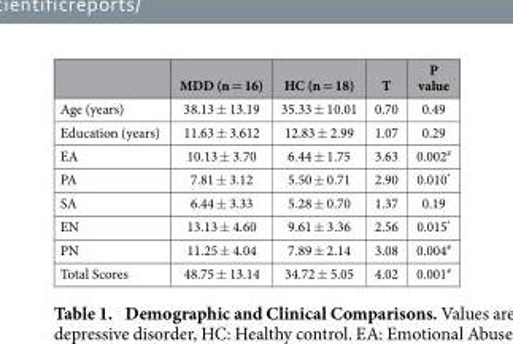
<table><thead><tr><td></td><td>MDD (n = 16)</td><td>HC (n = 18)</td><td>T</td><td>P value</td></tr></thead><tbody><tr><td>Age (years)</td><td>38.13 ± 13.19</td><td>35.33 ± 10.01</td><td>0.70</td><td>0.49</td></tr><tr><td>Education (years)</td><td>11.63 ± 3.612</td><td>12.83 ± 2.99</td><td>1.07</td><td>0.29</td></tr><tr><td>EA</td><td>10.13 ± 3.70</td><td>6.44 ± 1.75</td><td>3.63</td><td>0.002<sup>#</sup></td></tr><tr><td>PA</td><td>7.81 ± 3.12</td><td>5.50 ± 0.71</td><td>2.90</td><td>0.010*</td></tr><tr><td>SA</td><td>6.44 ± 3.33</td><td>5.28 ± 0.70</td><td>1.37</td><td>0.19</td></tr><tr><td>EN</td><td>13.13 ± 4.60</td><td>9.61 ± 3.36</td><td>2.56</td><td>0.015*</td></tr><tr><td>PN</td><td>11.25 ± 4.04</td><td>7.89 ± 2.14</td><td>3.08</td><td>0.004<sup>#</sup></td></tr><tr><td>Total Scores</td><td>48.75 ± 13.14</td><td>34.72 ± 5.05</td><td>4.02</td><td>0.001<sup>#</sup></td></tr></tbody></table>